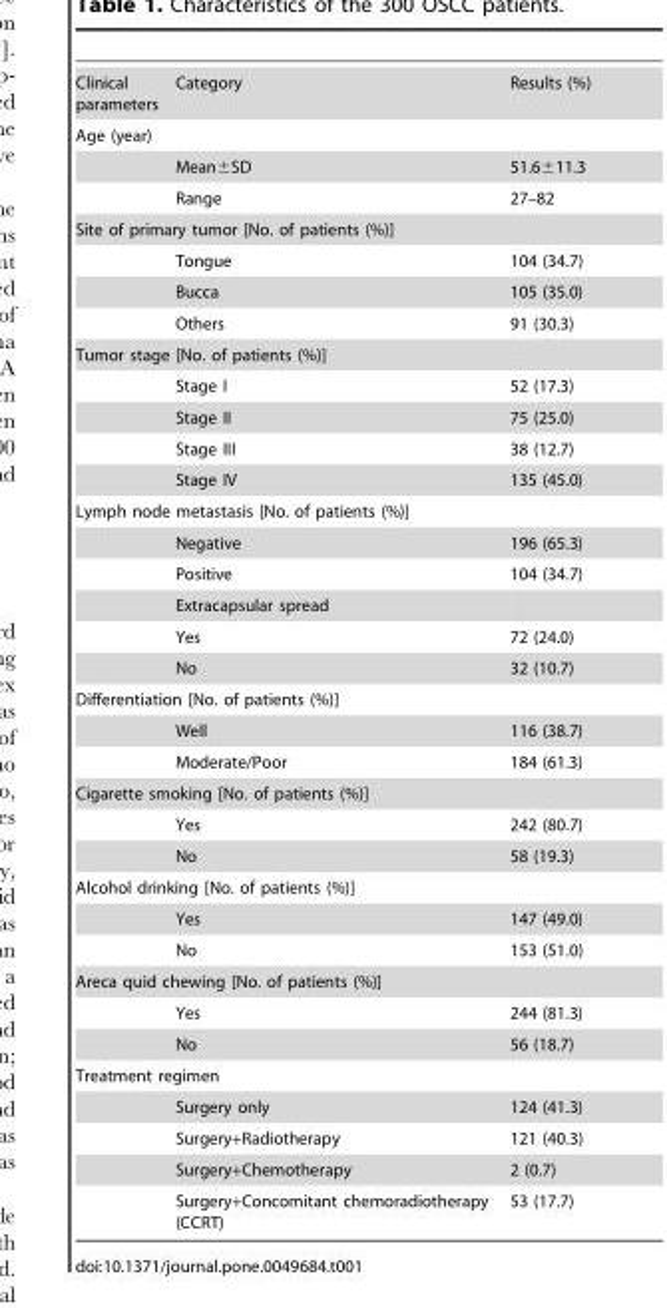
<table><tbody><tr><td>Clinical parameters</td><td>Category</td><td>Results (%)</td></tr><tr><td colspan="3">Age (year)</td></tr><tr><td></td><td>Mean±SD</td><td>51.6±11.3</td></tr><tr><td></td><td>Range</td><td>27–82</td></tr><tr><td colspan="3">Site of primary tumor [No. of patients (%)]</td></tr><tr><td></td><td>Tongue</td><td>104 (34.7)</td></tr><tr><td></td><td>Bucca</td><td>105 (35.0)</td></tr><tr><td></td><td>Others</td><td>91 (30.3)</td></tr><tr><td colspan="3">Tumor stage [No. of patients (%)]</td></tr><tr><td></td><td>Stage I</td><td>52 (17.3)</td></tr><tr><td></td><td>Stage II</td><td>75 (25.0)</td></tr><tr><td></td><td>Stage III</td><td>38 (12.7)</td></tr><tr><td></td><td>Stage IV</td><td>135 (45.0)</td></tr><tr><td colspan="3">Lymph node metastasis [No. of patients (%)]</td></tr><tr><td></td><td>Negative</td><td>196 (65.3)</td></tr><tr><td></td><td>Positive</td><td>104 (34.7)</td></tr><tr><td></td><td>Extracapsular spread</td><td></td></tr><tr><td></td><td>Yes</td><td>72 (24.0)</td></tr><tr><td></td><td>No</td><td>32 (10.7)</td></tr><tr><td colspan="3">Differentiation [No. of patients (%)]</td></tr><tr><td></td><td>Well</td><td>116 (38.7)</td></tr><tr><td></td><td>Moderate/Poor</td><td>184 (61.3)</td></tr><tr><td colspan="3">Cigarette smoking [No. of patients (%)]</td></tr><tr><td></td><td>Yes</td><td>242 (80.7)</td></tr><tr><td></td><td>No</td><td>58 (19.3)</td></tr><tr><td colspan="3">Alcohol drinking [No. of patients (%)]</td></tr><tr><td></td><td>Yes</td><td>147 (49.0)</td></tr><tr><td></td><td>No</td><td>153 (51.0)</td></tr><tr><td colspan="3">Areca quid chewing [No. of patients (%)]</td></tr><tr><td></td><td>Yes</td><td>244 (81.3)</td></tr><tr><td></td><td>No</td><td>56 (18.7)</td></tr><tr><td colspan="3">Treatment regimen</td></tr><tr><td></td><td>Surgery only</td><td>124 (41.3)</td></tr><tr><td></td><td>Surgery+Radiotherapy</td><td>121 (40.3)</td></tr><tr><td></td><td>Surgery+Chemotherapy</td><td>2 (0.7)</td></tr><tr><td></td><td>Surgery+Concomitant chemoradiotherapy (CCRT)</td><td>53 (17.7)</td></tr></tbody></table>